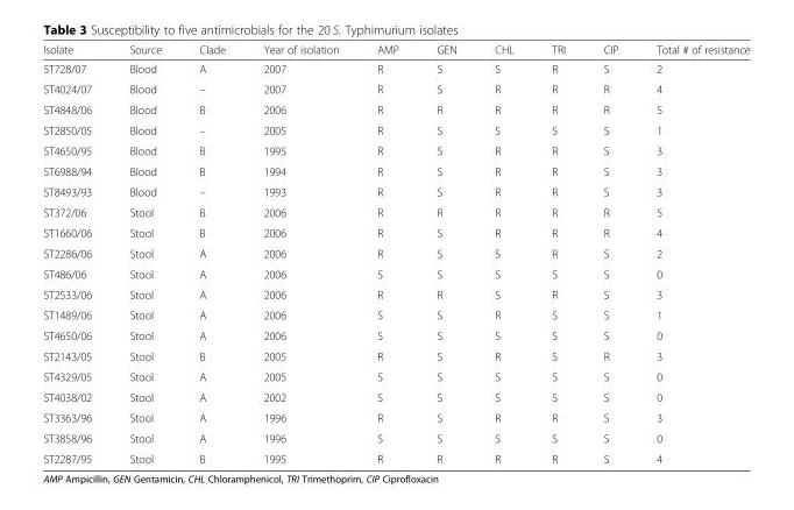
<table><thead><tr><td>Isolate</td><td>Source</td><td>Clade</td><td>Year of isolation</td><td>AMP</td><td>GEN</td><td>CHL</td><td>TRI</td><td>CIP</td><td>Total # of resistance</td></tr></thead><tbody><tr><td>ST728/07</td><td>Blood</td><td>A</td><td>2007</td><td>R</td><td>S</td><td>S</td><td>R</td><td>S</td><td>2</td></tr><tr><td>ST4024/07</td><td>Blood</td><td>–</td><td>2007</td><td>R</td><td>S</td><td>R</td><td>R</td><td>R</td><td>4</td></tr><tr><td>ST4848/06</td><td>Blood</td><td>B</td><td>2006</td><td>R</td><td>R</td><td>R</td><td>R</td><td>R</td><td>5</td></tr><tr><td>ST2850/05</td><td>Blood</td><td>–</td><td>2005</td><td>R</td><td>S</td><td>S</td><td>S</td><td>S</td><td>1</td></tr><tr><td>ST4650/95</td><td>Blood</td><td>B</td><td>1995</td><td>R</td><td>S</td><td>R</td><td>R</td><td>S</td><td>3</td></tr><tr><td>ST6988/94</td><td>Blood</td><td>B</td><td>1994</td><td>R</td><td>S</td><td>R</td><td>R</td><td>S</td><td>3</td></tr><tr><td>ST8493/93</td><td>Blood</td><td>–</td><td>1993</td><td>R</td><td>S</td><td>R</td><td>R</td><td>S</td><td>3</td></tr><tr><td>ST372/06</td><td>Stool</td><td>B</td><td>2006</td><td>R</td><td>R</td><td>R</td><td>R</td><td>R</td><td>5</td></tr><tr><td>ST1660/06</td><td>Stool</td><td>B</td><td>2006</td><td>R</td><td>S</td><td>R</td><td>R</td><td>R</td><td>4</td></tr><tr><td>ST2286/06</td><td>Stool</td><td>A</td><td>2006</td><td>R</td><td>S</td><td>S</td><td>R</td><td>S</td><td>2</td></tr><tr><td>ST486/06</td><td>Stool</td><td>A</td><td>2006</td><td>S</td><td>S</td><td>S</td><td>S</td><td>S</td><td>0</td></tr><tr><td>ST2533/06</td><td>Stool</td><td>A</td><td>2006</td><td>R</td><td>R</td><td>S</td><td>R</td><td>S</td><td>3</td></tr><tr><td>ST1489/06</td><td>Stool</td><td>A</td><td>2006</td><td>S</td><td>S</td><td>R</td><td>S</td><td>S</td><td>1</td></tr><tr><td>ST4650/06</td><td>Stool</td><td>A</td><td>2006</td><td>S</td><td>S</td><td>S</td><td>S</td><td>S</td><td>0</td></tr><tr><td>ST2143/05</td><td>Stool</td><td>B</td><td>2005</td><td>R</td><td>S</td><td>R</td><td>S</td><td>R</td><td>3</td></tr><tr><td>ST4329/05</td><td>Stool</td><td>A</td><td>2005</td><td>S</td><td>S</td><td>S</td><td>S</td><td>S</td><td>0</td></tr><tr><td>ST4038/02</td><td>Stool</td><td>A</td><td>2002</td><td>S</td><td>S</td><td>S</td><td>S</td><td>S</td><td>0</td></tr><tr><td>ST3363/96</td><td>Stool</td><td>A</td><td>1996</td><td>R</td><td>S</td><td>R</td><td>R</td><td>S</td><td>3</td></tr><tr><td>ST3858/96</td><td>Stool</td><td>A</td><td>1996</td><td>S</td><td>S</td><td>S</td><td>S</td><td>S</td><td>0</td></tr><tr><td>ST2287/95</td><td>Stool</td><td>B</td><td>1995</td><td>R</td><td>R</td><td>R</td><td>R</td><td>S</td><td>4</td></tr></tbody></table>